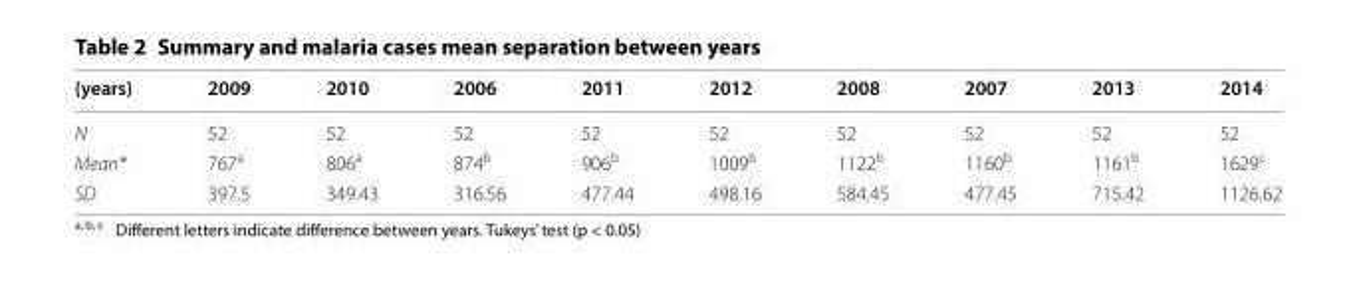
<table><thead><tr><td>(years)</td><td>2009</td><td>2010</td><td>2006</td><td>2011</td><td>2012</td><td>2008</td><td>2007</td><td>2013</td><td>2014</td></tr></thead><tbody><tr><td>N</td><td>52</td><td>52</td><td>52</td><td>52</td><td>52</td><td>52</td><td>52</td><td>52</td><td>52</td></tr><tr><td>Mean*</td><td>767<sup>a</sup></td><td>806<sup>a</sup></td><td>874<sup>b</sup></td><td>906<sup>b</sup></td><td>1009<sup>b</sup></td><td>1122<sup>b</sup></td><td>1160<sup>b</sup></td><td>1161<sup>b</sup></td><td>1629<sup>c</sup></td></tr><tr><td>SD</td><td>397.5</td><td>349.43</td><td>316.56</td><td>477.44</td><td>498.16</td><td>584.45</td><td>477.45</td><td>715.42</td><td>1126.62</td></tr></tbody></table>